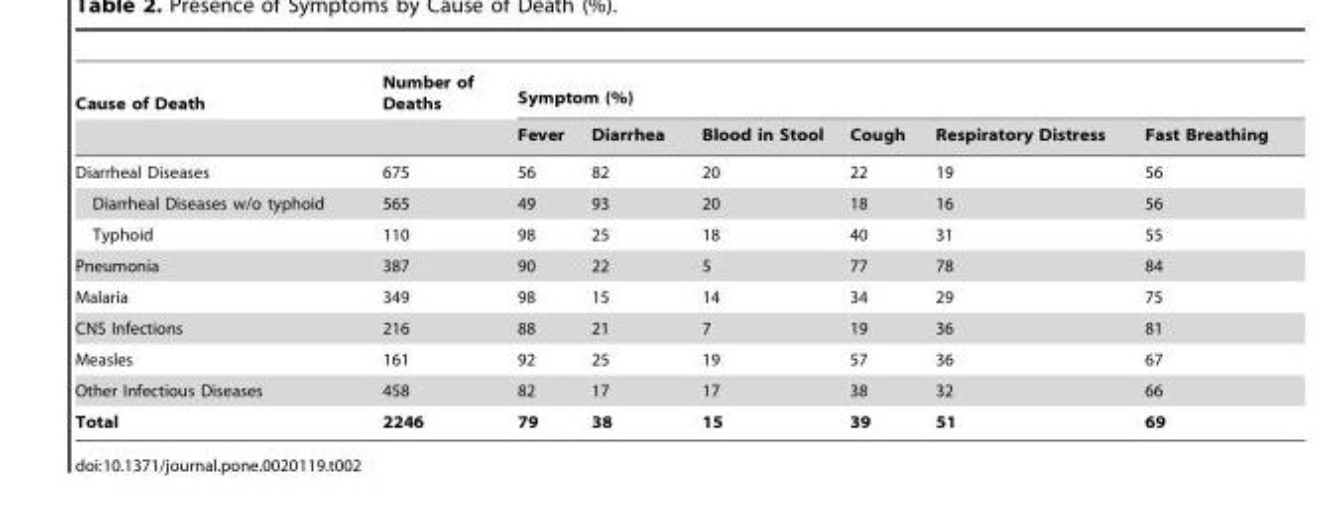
<table><thead><tr><td rowspan="2">Cause of Death</td><td rowspan="2">Number of Deaths</td><td colspan="6">Symptom (%)</td></tr><tr><td>Fever</td><td>Diarrhea</td><td>Blood in Stool</td><td>Cough</td><td>Respiratory Distress</td><td>Fast Breathing</td></tr></thead><tbody><tr><td>Diarrheal Diseases</td><td>675</td><td>56</td><td>82</td><td>20</td><td>22</td><td>19</td><td>56</td></tr><tr><td>Diarrheal Diseases w/o typhoid</td><td>565</td><td>49</td><td>93</td><td>20</td><td>18</td><td>16</td><td>56</td></tr><tr><td>Typhoid</td><td>110</td><td>98</td><td>25</td><td>18</td><td>40</td><td>31</td><td>55</td></tr><tr><td>Pneumonia</td><td>387</td><td>90</td><td>22</td><td>5</td><td>77</td><td>78</td><td>84</td></tr><tr><td>Malaria</td><td>349</td><td>98</td><td>15</td><td>14</td><td>34</td><td>29</td><td>75</td></tr><tr><td>CNS Infections</td><td>216</td><td>88</td><td>21</td><td>7</td><td>19</td><td>36</td><td>81</td></tr><tr><td>Measles</td><td>161</td><td>92</td><td>25</td><td>19</td><td>57</td><td>36</td><td>67</td></tr><tr><td>Other Infectious Diseases</td><td>458</td><td>82</td><td>17</td><td>17</td><td>38</td><td>32</td><td>66</td></tr><tr><td>Total</td><td>2246</td><td>79</td><td>38</td><td>15</td><td>39</td><td>51</td><td>69</td></tr></tbody></table>